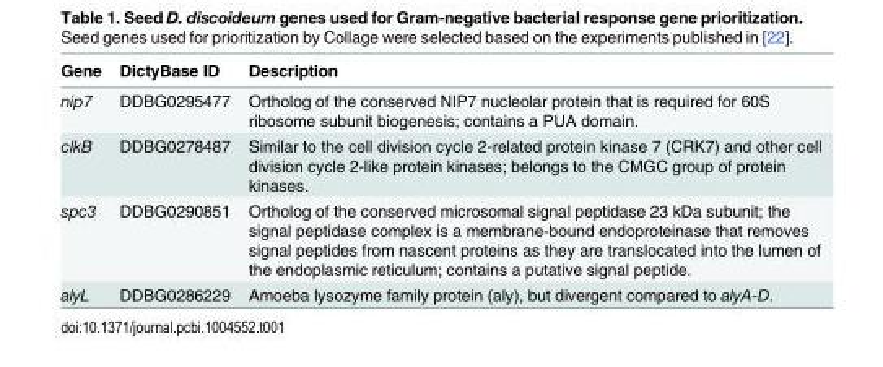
<table><thead><tr><td>Gene</td><td>DictyBase ID</td><td>Description</td></tr></thead><tbody><tr><td>nip7</td><td>DDBG0295477</td><td>Ortholog of the conserved NIP7 nucleolar protein that is required for 60S ribosome subunit biogenesis; contains a PUA domain.</td></tr><tr><td>clkB</td><td>DDBG0278487</td><td>Similar to the cell division cycle 2-related protein kinase 7 (CRK7) and other cell division cycle 2-like protein kinases; belongs to the CMGC group of protein kinases.</td></tr><tr><td>spc3</td><td>DDBG0290851</td><td>Ortholog of the conserved microsomal signal peptidase 23 kDa subunit; the signal peptidase complex is a membrane-bound endoproteinase that removes signal peptides from nascent proteins as they are translocated into the lumen of the endoplasmic reticulum; contains a putative signal peptide.</td></tr><tr><td>alyL</td><td>DDBG0286229</td><td>Amoeba lysozyme family protein (aly), but divergent compared to alyA-D.</td></tr></tbody></table>